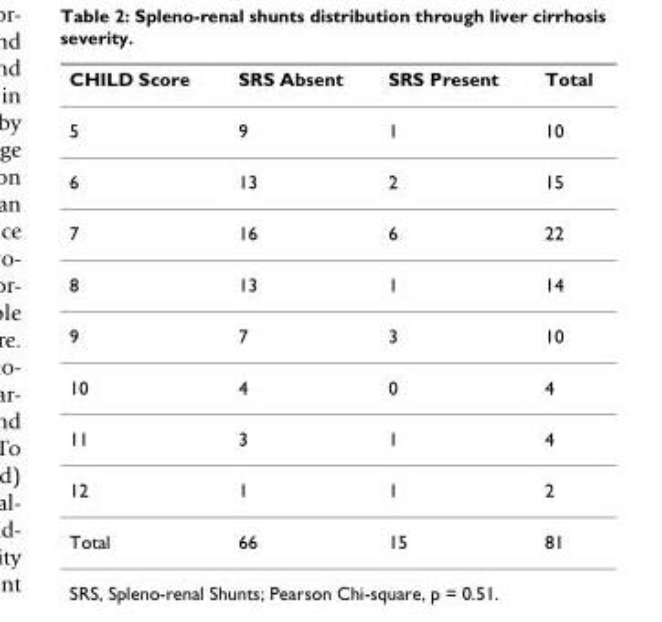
<table><thead><tr><td>CHILD Score</td><td>SRS Absent</td><td>SRS Present</td><td>Total</td></tr></thead><tbody><tr><td>5</td><td>9</td><td>1</td><td>10</td></tr><tr><td>6</td><td>13</td><td>2</td><td>15</td></tr><tr><td>7</td><td>16</td><td>6</td><td>22</td></tr><tr><td>8</td><td>13</td><td>1</td><td>14</td></tr><tr><td>9</td><td>7</td><td>3</td><td>10</td></tr><tr><td>10</td><td>4</td><td>0</td><td>4</td></tr><tr><td>11</td><td>3</td><td>1</td><td>4</td></tr><tr><td>12</td><td>1</td><td>1</td><td>2</td></tr><tr><td>Total</td><td>66</td><td>15</td><td>81</td></tr></tbody></table>